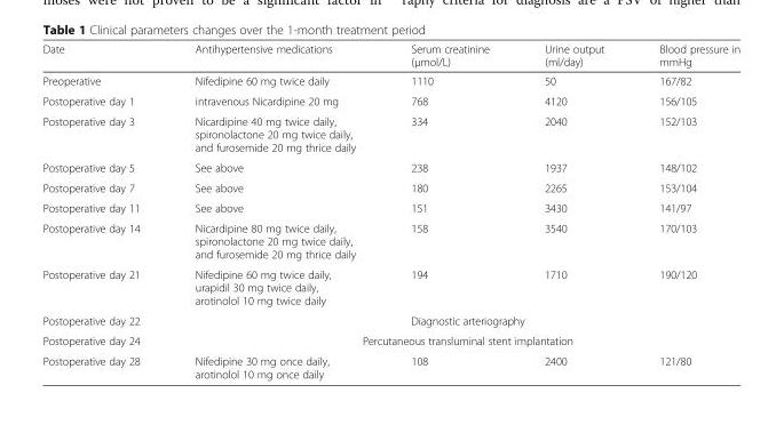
<table><thead><tr><td>Date</td><td>Antihypertensive medications</td><td>Serum creatinine (μmol/L)</td><td>Urine output (ml/day)</td><td>Blood pressure in mmHg</td></tr></thead><tbody><tr><td>Preoperative</td><td>Nifedipine 60 mg twice daily</td><td>1110</td><td>50</td><td>167/82</td></tr><tr><td>Postoperative day 1</td><td>intravenous Nicardipine 20 mg</td><td>768</td><td>4120</td><td>156/105</td></tr><tr><td>Postoperative day 3</td><td>Nicardipine 40 mg twice daily, spironolactone 20 mg twice daily, and furosemide 20 mg thrice daily</td><td>334</td><td>2040</td><td>152/103</td></tr><tr><td>Postoperative day 5</td><td>See above</td><td>238</td><td>1937</td><td>148/102</td></tr><tr><td>Postoperative day 7</td><td>See above</td><td>180</td><td>2265</td><td>153/104</td></tr><tr><td>Postoperative day 11</td><td>See above</td><td>151</td><td>3430</td><td>141/97</td></tr><tr><td>Postoperative day 14</td><td>Nicardipine 80 mg twice daily, spironolactone 20 mg twice daily, and furosemide 20 mg thrice daily</td><td>158</td><td>3540</td><td>170/103</td></tr><tr><td>Postoperative day 21</td><td>Nifedipine 60 mg twice daily, urapidil 30 mg twice daily, arotinolol 10 mg twice daily</td><td>194</td><td>1710</td><td>190/120</td></tr><tr><td>Postoperative day 22</td><td colspan="4">Diagnostic arteriography</td></tr><tr><td>Postoperative day 24</td><td colspan="4">Percutaneous transluminal stent implantation</td></tr><tr><td>Postoperative day 28</td><td>Nifedipine 30 mg once daily, arotinolol 10 mg once daily</td><td>108</td><td>2400</td><td>121/80</td></tr></tbody></table>